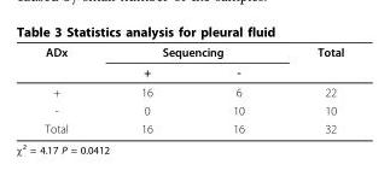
<table><thead><tr><td rowspan="2">ADx</td><td colspan="2">Sequencing</td><td rowspan="2">Total</td></tr><tr><td>+</td><td>-</td></tr></thead><tbody><tr><td>+</td><td>16</td><td>6</td><td>22</td></tr><tr><td>-</td><td>0</td><td>10</td><td>10</td></tr><tr><td>Total</td><td>16</td><td>16</td><td>32</td></tr></tbody></table>